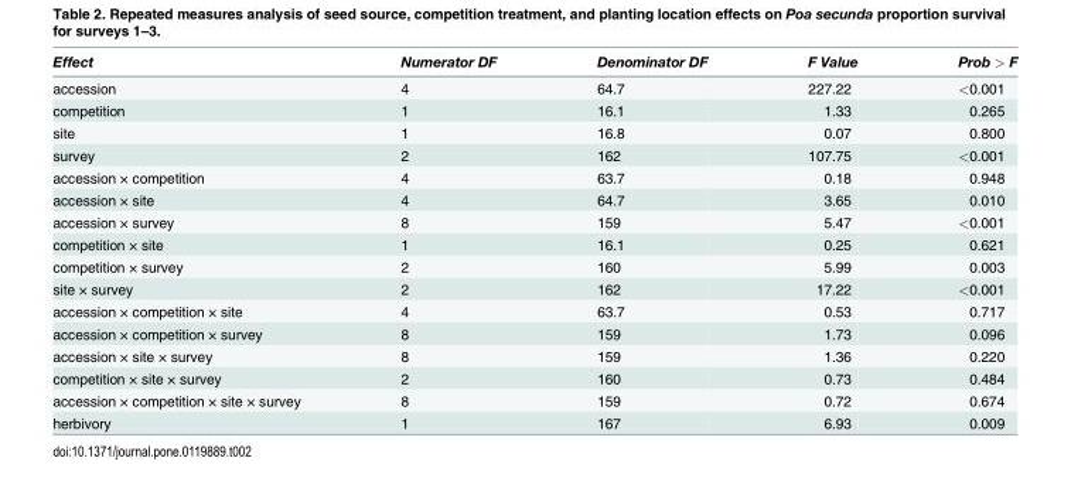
<table><thead><tr><td>Effect</td><td>Numerator DF</td><td>Denominator DF</td><td>F Value</td><td>Prob &gt; F</td></tr></thead><tbody><tr><td>accession</td><td>4</td><td>64.7</td><td>227.22</td><td>&lt;0.001</td></tr><tr><td>competition</td><td>1</td><td>16.1</td><td>1.33</td><td>0.265</td></tr><tr><td>site</td><td>1</td><td>16.8</td><td>0.07</td><td>0.800</td></tr><tr><td>survey</td><td>2</td><td>162</td><td>107.75</td><td>&lt;0.001</td></tr><tr><td>accession × competition</td><td>4</td><td>63.7</td><td>0.18</td><td>0.948</td></tr><tr><td>accession × site</td><td>4</td><td>64.7</td><td>3.65</td><td>0.010</td></tr><tr><td>accession × survey</td><td>8</td><td>159</td><td>5.47</td><td>&lt;0.001</td></tr><tr><td>competition × site</td><td>1</td><td>16.1</td><td>0.25</td><td>0.621</td></tr><tr><td>competition × survey</td><td>2</td><td>160</td><td>5.99</td><td>0.003</td></tr><tr><td>site × survey</td><td>2</td><td>162</td><td>17.22</td><td>&lt;0.001</td></tr><tr><td>accession × competition × site</td><td>4</td><td>63.7</td><td>0.53</td><td>0.717</td></tr><tr><td>accession × competition × survey</td><td>8</td><td>159</td><td>1.73</td><td>0.096</td></tr><tr><td>accession × site × survey</td><td>8</td><td>159</td><td>1.36</td><td>0.220</td></tr><tr><td>competition × site × survey</td><td>2</td><td>160</td><td>0.73</td><td>0.484</td></tr><tr><td>accession × competition × site × survey</td><td>8</td><td>159</td><td>0.72</td><td>0.674</td></tr><tr><td>herbivory</td><td>1</td><td>167</td><td>6.93</td><td>0.009</td></tr></tbody></table>